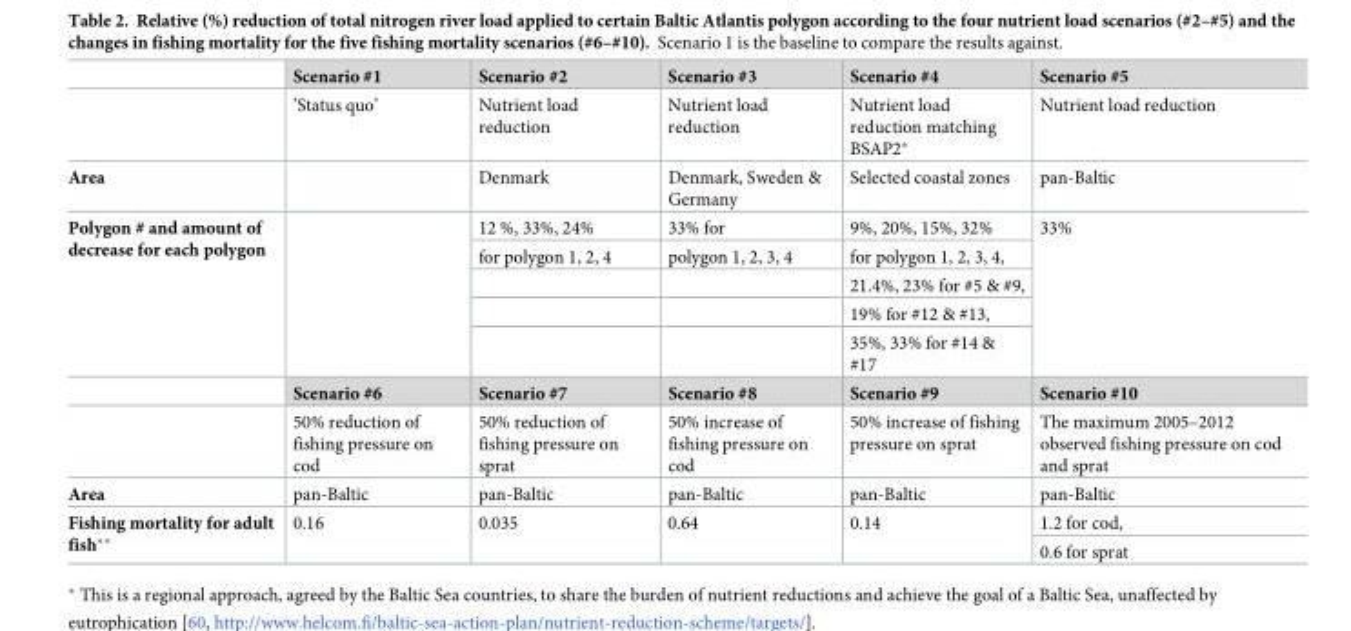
<table><thead><tr><td></td><td>Scenario #1</td><td>Scenario #2</td><td>Scenario #3</td><td>Scenario #4</td><td>Scenario #5</td></tr></thead><tbody><tr><td></td><td>’Status quo’</td><td>Nutrient load reduction</td><td>Nutrient load reduction</td><td>Nutrient load reduction matching BSAP2*</td><td>Nutrient load reduction</td></tr><tr><td>Area</td><td></td><td>Denmark</td><td>Denmark, Sweden &amp; Germany</td><td>Selected coastal zones</td><td>pan-Baltic</td></tr><tr><td rowspan="7">Polygon # and amount of decrease for each polygon</td><td rowspan="5"></td><td>12 %, 33%, 24%</td><td>33% for</td><td>9%, 20%, 15%, 32%</td><td rowspan="5">33%</td></tr><tr><td>for polygon 1, 2, 4</td><td>polygon 1, 2, 3, 4</td><td>for polygon 1, 2, 3, 4,</td></tr><tr><td></td><td></td><td>21.4%, 23% for #5 &amp; #9,</td></tr><tr><td></td><td></td><td>19% for #12 &amp; #13,</td></tr><tr><td></td><td></td><td>35%, 33% for #14 &amp; #17</td></tr><tr><td>Scenario #6</td><td>Scenario #7</td><td>Scenario #8</td><td>Scenario #9</td><td>Scenario #10</td></tr><tr><td>50% reduction of fishing pressure on cod</td><td>50% reduction of fishing pressure on sprat</td><td>50% increase of fishing pressure on cod</td><td>50% increase of fishing pressure on sprat</td><td>The maximum 2005–2012 observed fishing pressure on cod and sprat</td></tr><tr><td>Area</td><td>pan-Baltic</td><td>pan-Baltic</td><td>pan-Baltic</td><td>pan-Baltic</td><td>pan-Baltic</td></tr><tr><td rowspan="2">Fishing mortality for adult fish**</td><td rowspan="2">0.16</td><td rowspan="2">0.035</td><td rowspan="2">0.64</td><td rowspan="2">0.14</td><td>1.2 for cod,</td></tr><tr><td>0.6 for sprat</td></tr></tbody></table>